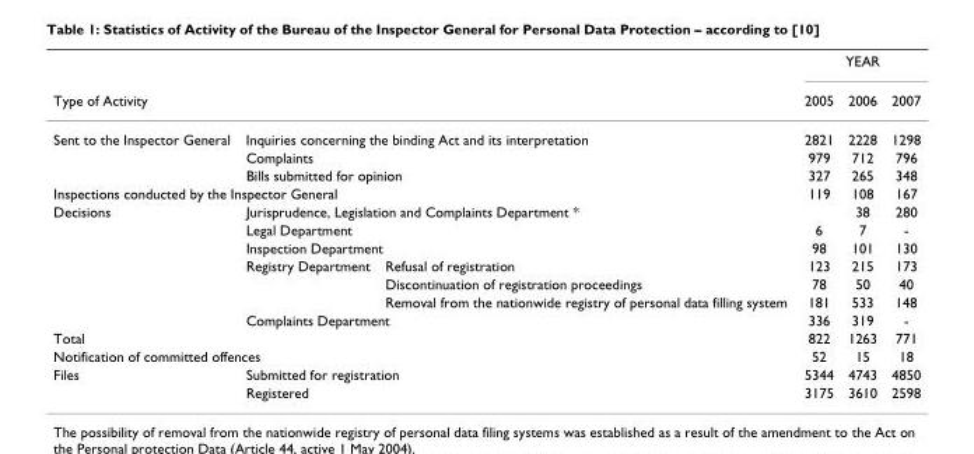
<table><thead><tr><td></td><td></td><td></td><td colspan="3">YEAR</td></tr><tr><td colspan="3">Type of Activity</td><td>2005</td><td>2006</td><td>2007</td></tr></thead><tbody><tr><td rowspan="3">Sent to the Inspector General</td><td colspan="2">Inquiries concerning the binding Act and its interpretation</td><td>2821</td><td>2228</td><td>1298</td></tr><tr><td colspan="2">Complaints</td><td>979</td><td>712</td><td>796</td></tr><tr><td colspan="2">Bills submitted for opinion</td><td>327</td><td>265</td><td>348</td></tr><tr><td colspan="3">Inspections conducted by the Inspector General</td><td>119</td><td>108</td><td>167</td></tr><tr><td rowspan="7">Decisions</td><td colspan="2">Jurisprudence, Legislation and Complaints Department *</td><td></td><td>38</td><td>280</td></tr><tr><td colspan="2">Legal Department</td><td>6</td><td>7</td><td>-</td></tr><tr><td colspan="2">Inspection Department</td><td>98</td><td>101</td><td>130</td></tr><tr><td>Registry Department</td><td>Refusal of registration</td><td>123</td><td>215</td><td>173</td></tr><tr><td></td><td>Discontinuation of registration proceedings</td><td>78</td><td>50</td><td>40</td></tr><tr><td></td><td>Removal from the nationwide registry of personal data filling system</td><td>181</td><td>533</td><td>148</td></tr><tr><td colspan="2">Complaints Department</td><td>336</td><td>319</td><td>-</td></tr><tr><td colspan="3">Total</td><td>822</td><td>1263</td><td>771</td></tr><tr><td colspan="3">Notification of committed offences</td><td>52</td><td>15</td><td>18</td></tr><tr><td rowspan="2">Files</td><td colspan="2">Submitted for registration</td><td>5344</td><td>4743</td><td>4850</td></tr><tr><td colspan="2">Registered</td><td>3175</td><td>3610</td><td>2598</td></tr></tbody></table>